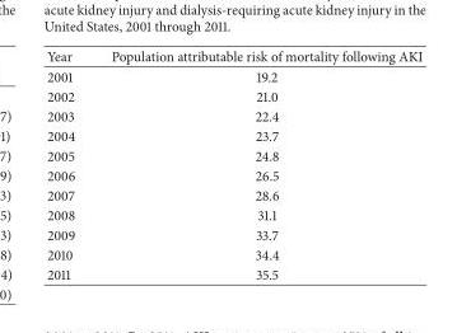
<table><thead><tr><td>Year</td><td>Population attributable risk of mortality following AKI</td></tr></thead><tbody><tr><td>2001</td><td>19.2</td></tr><tr><td>2002</td><td>21.0</td></tr><tr><td>2003</td><td>22.4</td></tr><tr><td>2004</td><td>23.7</td></tr><tr><td>2005</td><td>24.8</td></tr><tr><td>2006</td><td>26.5</td></tr><tr><td>2007</td><td>28.6</td></tr><tr><td>2008</td><td>31.1</td></tr><tr><td>2009</td><td>33.7</td></tr><tr><td>2010</td><td>34.4</td></tr><tr><td>2011</td><td>35.5</td></tr></tbody></table>